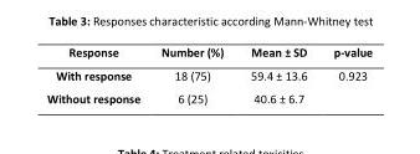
<table><thead><tr><td>Response</td><td>Number (%)</td><td>Mean ± SD</td><td>p-value</td></tr></thead><tbody><tr><td>With response</td><td>18 (75)</td><td>59.4 ± 13.6</td><td rowspan="2">0.923</td></tr><tr><td>Without response</td><td>6 (25)</td><td>40.6 ± 6.7</td></tr></tbody></table>